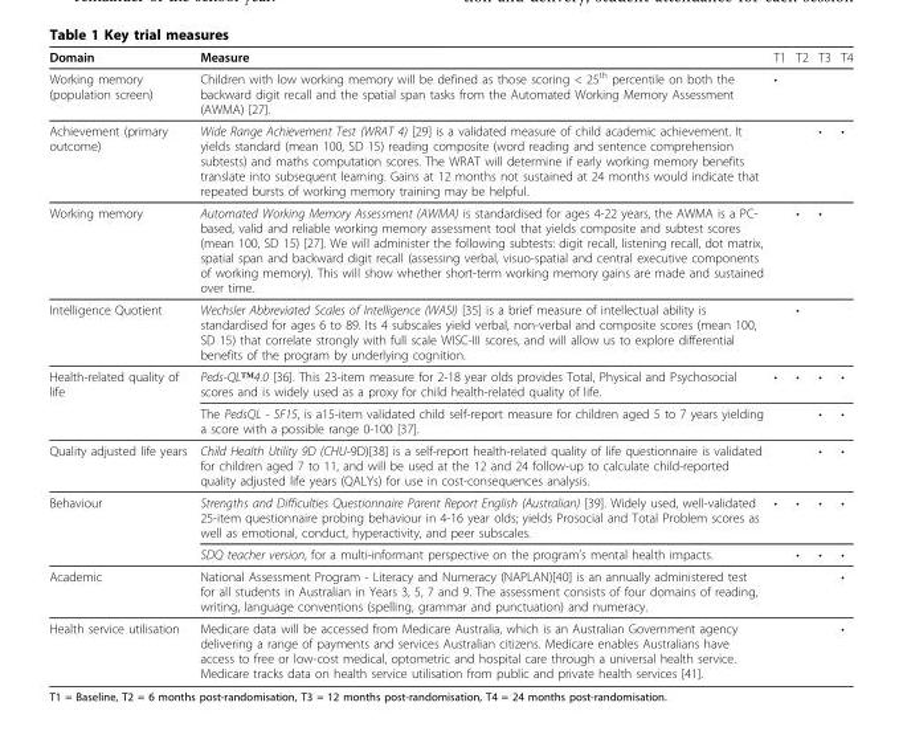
<table><thead><tr><td>Domain</td><td>Measure</td><td>T1</td><td>T2</td><td>T3</td><td>T4</td></tr></thead><tbody><tr><td>Working memory (population screen)</td><td>Children with low working memory will be defined as those scoring &lt; 25<sup>th</sup> percentile on both the backward digit recall and the spatial span tasks from the Automated Working Memory Assessment (AWMA) [27].</td><td>•</td><td></td><td></td><td></td></tr><tr><td>Achievement (primary outcome)</td><td>Wide Range Achievement Test (WRAT 4) [29] is a validated measure of child academic achievement. It yields standard (mean 100, SD 15) reading composite (word reading and sentence comprehension subtests) and maths computation scores. The WRAT will determine if early working memory benefits translate into subsequent learning. Gains at 12 months not sustained at 24 months would indicate that repeated bursts of working memory training may be helpful.</td><td></td><td></td><td>•</td><td>•</td></tr><tr><td>Working memory</td><td>Automated Working Memory Assessment (AWMA) is standardised for ages 4-22 years, the AWMA is a PC- based, valid and reliable working memory assessment tool that yields composite and subtest scores (mean 100, SD 15) [27]. We will administer the following subtests: digit recall, listening recall, dot matrix, spatial span and backward digit recall (assessing verbal, visuo-spatial and central executive components of working memory). This will show whether short-term working memory gains are made and sustained over time.</td><td></td><td>•</td><td>•</td><td></td></tr><tr><td>Intelligence Quotient</td><td>Wechsler Abbreviated Scales of Intelligence (WASI) [35] is a brief measure of intellectual ability is standardised for ages 6 to 89. Its 4 subscales yield verbal, non-verbal and composite scores (mean 100, SD 15) that correlate strongly with full scale WISC-III scores, and will allow us to explore differential benefits of the program by underlying cognition.</td><td></td><td>•</td><td></td><td></td></tr><tr><td rowspan="2">Health-related quality of life</td><td>Peds-QL™4.0 [36]. This 23-item measure for 2-18 year olds provides Total, Physical and Psychosocial scores and is widely used as a proxy for child health-related quality of life.</td><td>•</td><td>•</td><td>•</td><td>•</td></tr><tr><td>The PedsQL - SF15, is a15-item validated child self-report measure for children aged 5 to 7 years yielding a score with a possible range 0-100 [37].</td><td></td><td></td><td>•</td><td>•</td></tr><tr><td>Quality adjusted life years</td><td>Child Health Utility 9D (CHU-9D)[38] is a self-report health-related quality of life questionnaire is validated for children aged 7 to 11, and will be used at the 12 and 24 follow-up to calculate child-reported quality adjusted life years (QALYs) for use in cost-consequences analysis.</td><td></td><td></td><td>•</td><td>•</td></tr><tr><td rowspan="2">Behaviour</td><td>Strengths and Difficulties Questionnaire Parent Report English (Australian) [39]. Widely used, well-validated 25-item questionnaire probing behaviour in 4-16 year olds; yields Prosocial and Total Problem scores as well as emotional, conduct, hyperactivity, and peer subscales.</td><td>•</td><td>•</td><td>•</td><td>•</td></tr><tr><td>SDQ teacher version, for a multi-informant perspective on the program’s mental health impacts.</td><td></td><td>•</td><td>•</td><td>•</td></tr><tr><td>Academic</td><td>National Assessment Program - Literacy and Numeracy (NAPLAN)[40] is an annually administered test for all students in Australian in Years 3, 5, 7 and 9. The assessment consists of four domains of reading, writing, language conventions (spelling, grammar and punctuation) and numeracy.</td><td></td><td></td><td></td><td>•</td></tr><tr><td>Health service utilisation</td><td>Medicare data will be accessed from Medicare Australia, which is an Australian Government agency delivering a range of payments and services Australian citizens. Medicare enables Australians have access to free or low-cost medical, optometric and hospital care through a universal health service. Medicare tracks data on health service utilisation from public and private health services [41].</td><td></td><td></td><td></td><td>•</td></tr></tbody></table>